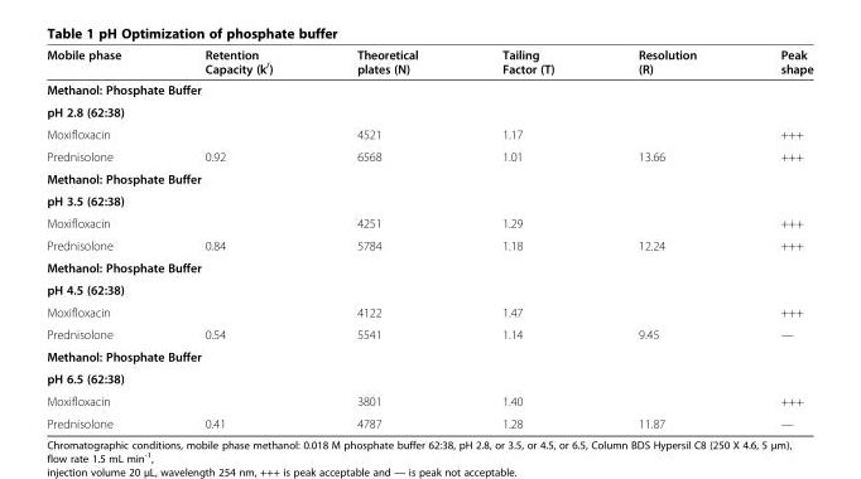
<table><thead><tr><td>Mobile phase</td><td>Retention Capacity (k<sup>/</sup>)</td><td>Theoretical plates (N)</td><td>Tailing Factor (T)</td><td>Resolution (R)</td><td>Peak shape</td></tr></thead><tbody><tr><td colspan="6">Methanol: Phosphate Buffer</td></tr><tr><td colspan="6">pH 2.8 (62:38)</td></tr><tr><td>Moxifloxacin</td><td></td><td>4521</td><td>1.17</td><td></td><td>+++</td></tr><tr><td>Prednisolone</td><td>0.92</td><td>6568</td><td>1.01</td><td>13.66</td><td>+++</td></tr><tr><td colspan="6">Methanol: Phosphate Buffer</td></tr><tr><td colspan="6">pH 3.5 (62:38)</td></tr><tr><td>Moxifloxacin</td><td></td><td>4251</td><td>1.29</td><td></td><td>+++</td></tr><tr><td>Prednisolone</td><td>0.84</td><td>5784</td><td>1.18</td><td>12.24</td><td>+++</td></tr><tr><td colspan="6">Methanol: Phosphate Buffer</td></tr><tr><td colspan="6">pH 4.5 (62:38)</td></tr><tr><td>Moxifloxacin</td><td></td><td>4122</td><td>1.47</td><td></td><td>+++</td></tr><tr><td>Prednisolone</td><td>0.54</td><td>5541</td><td>1.14</td><td>9.45</td><td>—</td></tr><tr><td colspan="6">Methanol: Phosphate Buffer</td></tr><tr><td colspan="6">pH 6.5 (62:38)</td></tr><tr><td>Moxifloxacin</td><td></td><td>3801</td><td>1.40</td><td></td><td>+++</td></tr><tr><td>Prednisolone</td><td>0.41</td><td>4787</td><td>1.28</td><td>11.87</td><td>—</td></tr></tbody></table>